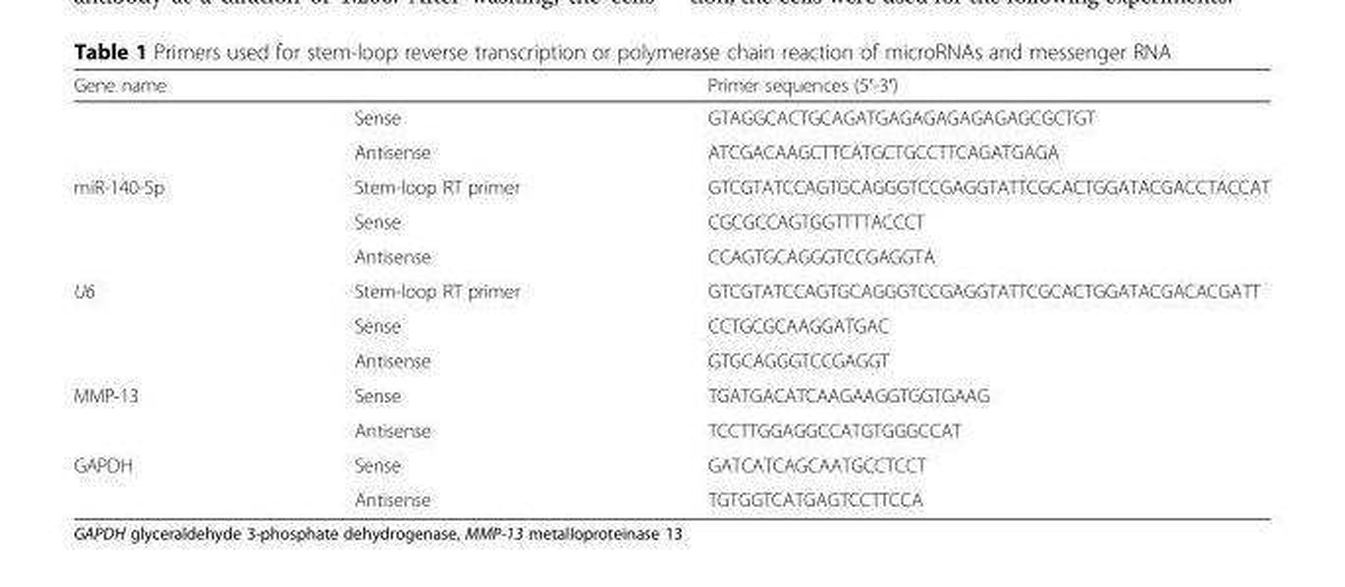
<table><thead><tr><td>Gene name</td><td></td><td>Primer sequences (5′-3′)</td></tr></thead><tbody><tr><td></td><td>Sense</td><td>GTAGGCACTGCAGATGAGAGAGAGAGAGCGCTGT</td></tr><tr><td></td><td>Antisense</td><td>ATCGACAAGCTTCATGCTGCCTTCAGATGAGA</td></tr><tr><td rowspan="3">miR-140-5p</td><td>Stem-loop RT primer</td><td>GTCGTATCCAGTGCAGGGTCCGAGGTATTCGCACTGGATACGACCTACCAT</td></tr><tr><td>Sense</td><td>CGCGCCAGTGGTTTTACCCT</td></tr><tr><td>Antisense</td><td>CCAGTGCAGGGTCCGAGGTA</td></tr><tr><td rowspan="3">U6</td><td>Stem-loop RT primer</td><td>GTCGTATCCAGTGCAGGGTCCGAGGTATTCGCACTGGATACGACACGATT</td></tr><tr><td>Sense</td><td>CCTGCGCAAGGATGAC</td></tr><tr><td>Antisense</td><td>GTGCAGGGTCCGAGGT</td></tr><tr><td rowspan="2">MMP-13</td><td>Sense</td><td>TGATGACATCAAGAAGGTGGTGAAG</td></tr><tr><td>Antisense</td><td>TCCTTGGAGGCCATGTGGGCCAT</td></tr><tr><td rowspan="2">GAPDH</td><td>Sense</td><td>GATCATCAGCAATGCCTCCT</td></tr><tr><td>Antisense</td><td>TGTGGTCATGAGTCCTTCCA</td></tr></tbody></table>